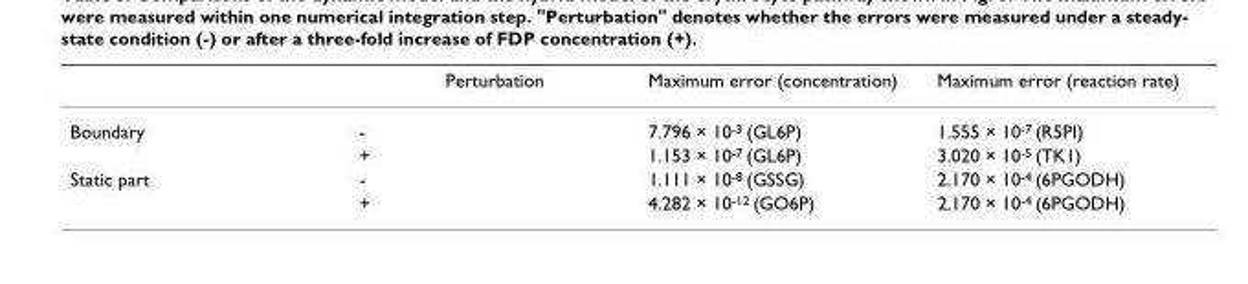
<table><thead><tr><td></td><td>Perturbation</td><td>Maximum error (concentration)</td><td>Maximum error (reaction rate)</td></tr></thead><tbody><tr><td rowspan="2">Boundary</td><td>-</td><td>7.796 × 10<sup>-3</sup> (GL6P)</td><td>1.555 × 10<sup>-7</sup> (R5PI)</td></tr><tr><td>+</td><td>1.153 × 10<sup>-7</sup> (GL6P)</td><td>3.020 × 10<sup>-5</sup> (TK1)</td></tr><tr><td rowspan="2">Static part</td><td>-</td><td>1.111 × 10<sup>-8</sup> (GSSG)</td><td>2.170 × 10<sup>-4</sup> (6PGODH)</td></tr><tr><td>+</td><td>4.282 × 10<sup>-12</sup> (GO6P)</td><td>2.170 × 10<sup>-4</sup> (6PGODH)</td></tr></tbody></table>